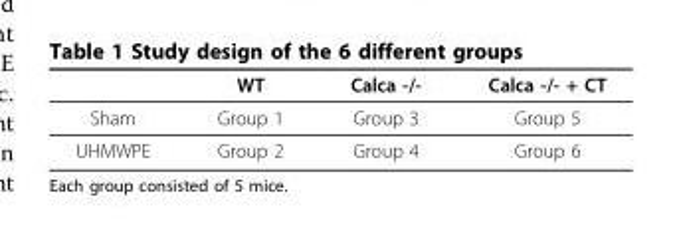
<table><thead><tr><td></td><td>WT</td><td>Calca -/-</td><td>Calca -/- + CT</td></tr></thead><tbody><tr><td>Sham</td><td>Group 1</td><td>Group 3</td><td>Group 5</td></tr><tr><td>UHMWPE</td><td>Group 2</td><td>Group 4</td><td>Group 6</td></tr></tbody></table>